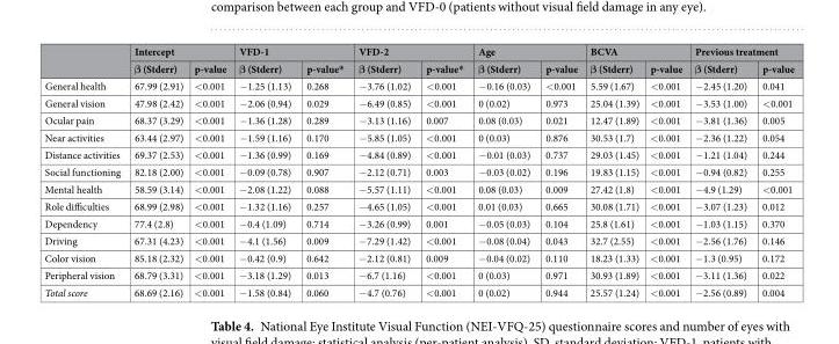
<table><thead><tr><td rowspan="2"></td><td colspan="2">Intercept</td><td colspan="2">VFD-1</td><td colspan="2">VFD-2</td><td colspan="2">Age</td><td colspan="2">BCVA</td><td colspan="2">Previous treatment</td></tr><tr><td>β (Stderr)</td><td>p-value</td><td>β (Stderr)</td><td>p-value*</td><td>β (Stderr)</td><td>p-value*</td><td>β (Stderr)</td><td>p-value</td><td>β (Stderr)</td><td>p-value</td><td>β (Stderr)</td><td>p-value</td></tr></thead><tbody><tr><td>General health</td><td>67.99 (2.91)</td><td>&lt;0.001</td><td>−1.25 (1.13)</td><td>0.268</td><td>−3.76 (1.02)</td><td>&lt;0.001</td><td>−0.16 (0.03)</td><td>&lt;0.001</td><td>5.59 (1.67)</td><td>&lt;0.001</td><td>−2.45 (1.20)</td><td>0.041</td></tr><tr><td>General vision</td><td>47.98 (2.42)</td><td>&lt;0.001</td><td>−2.06 (0.94)</td><td>0.029</td><td>−6.49 (0.85)</td><td>&lt;0.001</td><td>0 (0.02)</td><td>0.973</td><td>25.04 (1.39)</td><td>&lt;0.001</td><td>−3.53 (1.00)</td><td>&lt;0.001</td></tr><tr><td>Ocular pain</td><td>68.37 (3.29)</td><td>&lt;0.001</td><td>−1.36 (1.28)</td><td>0.289</td><td>−3.13 (1.16)</td><td>0.007</td><td>0.08 (0.03)</td><td>0.021</td><td>12.47 (1.89)</td><td>&lt;0.001</td><td>−3.81 (1.36)</td><td>0.005</td></tr><tr><td>Near activities</td><td>63.44 (2.97)</td><td>&lt;0.001</td><td>−1.59 (1.16)</td><td>0.170</td><td>−5.85 (1.05)</td><td>&lt;0.001</td><td>0 (0.03)</td><td>0.876</td><td>30.53 (1.7)</td><td>&lt;0.001</td><td>−2.36 (1.22)</td><td>0.054</td></tr><tr><td>Distance activities</td><td>69.37 (2.53)</td><td>&lt;0.001</td><td>−1.36 (0.99)</td><td>0.169</td><td>−4.84 (0.89)</td><td>&lt;0.001</td><td>−0.01 (0.03)</td><td>0.737</td><td>29.03 (1.45)</td><td>&lt;0.001</td><td>−1.21 (1.04)</td><td>0.244</td></tr><tr><td>Social functioning</td><td>82.18 (2.00)</td><td>&lt;0.001</td><td>−0.09 (0.78)</td><td>0.907</td><td>−2.12 (0.71)</td><td>0.003</td><td>−0.03 (0.02)</td><td>0.196</td><td>19.83 (1.15)</td><td>&lt;0.001</td><td>−0.94 (0.82)</td><td>0.255</td></tr><tr><td>Mental health</td><td>58.59 (3.14)</td><td>&lt;0.001</td><td>−2.08 (1.22)</td><td>0.088</td><td>−5.57 (1.11)</td><td>&lt;0.001</td><td>0.08 (0.03)</td><td>0.009</td><td>27.42 (1.8)</td><td>&lt;0.001</td><td>−4.9 (1.29)</td><td>&lt;0.001</td></tr><tr><td>Role difficulties</td><td>68.99 (2.98)</td><td>&lt;0.001</td><td>−1.32 (1.16)</td><td>0.257</td><td>−4.65 (1.05)</td><td>&lt;0.001</td><td>0.01 (0.03)</td><td>0.665</td><td>30.08 (1.71)</td><td>&lt;0.001</td><td>−3.07 (1.23)</td><td>0.012</td></tr><tr><td>Dependency</td><td>77.4 (2.8)</td><td>&lt;0.001</td><td>−0.4 (1.09)</td><td>0.714</td><td>−3.26 (0.99)</td><td>0.001</td><td>−0.05 (0.03)</td><td>0.104</td><td>25.8 (1.61)</td><td>&lt;0.001</td><td>−1.03 (1.15)</td><td>0.370</td></tr><tr><td>Driving</td><td>67.31 (4.23)</td><td>&lt;0.001</td><td>−4.1 (1.56)</td><td>0.009</td><td>−7.29 (1.42)</td><td>&lt;0.001</td><td>−0.08 (0.04)</td><td>0.043</td><td>32.7 (2.55)</td><td>&lt;0.001</td><td>−2.56 (1.76)</td><td>0.146</td></tr><tr><td>Color vision</td><td>85.18 (2.32)</td><td>&lt;0.001</td><td>−0.42 (0.9)</td><td>0.642</td><td>−2.12 (0.81)</td><td>0.009</td><td>−0.04 (0.02)</td><td>0.110</td><td>18.23 (1.33)</td><td>&lt;0.001</td><td>−1.3 (0.95)</td><td>0.172</td></tr><tr><td>Peripheral vision</td><td>68.79 (3.31)</td><td>&lt;0.001</td><td>−3.18 (1.29)</td><td>0.013</td><td>−6.7 (1.16)</td><td>&lt;0.001</td><td>0 (0.03)</td><td>0.971</td><td>30.93 (1.89)</td><td>&lt;0.001</td><td>−3.11 (1.36)</td><td>0.022</td></tr><tr><td>Total score</td><td>68.69 (2.16)</td><td>&lt;0.001</td><td>−1.58 (0.84)</td><td>0.060</td><td>−4.7 (0.76)</td><td>&lt;0.001</td><td>0 (0.02)</td><td>0.944</td><td>25.57 (1.24)</td><td>&lt;0.001</td><td>−2.56 (0.89)</td><td>0.004</td></tr></tbody></table>